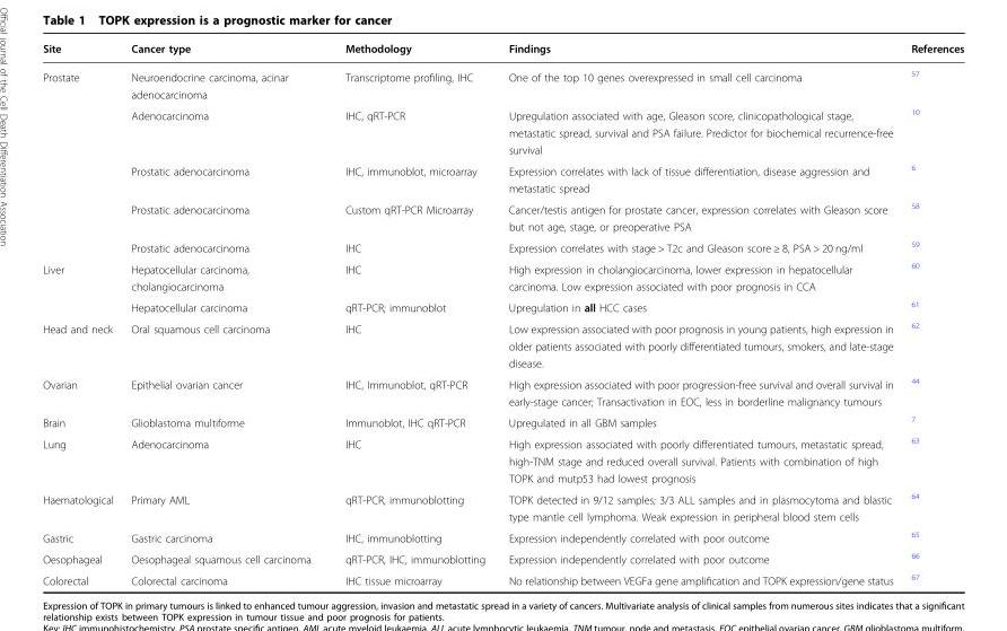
<table><thead><tr><td>Site</td><td>Cancer type</td><td>Methodology</td><td>Findings</td><td>References</td></tr></thead><tbody><tr><td rowspan="5">Prostate</td><td>Neuroendocrine carcinoma, acinar adenocarcinoma</td><td>Transcriptome profiling, IHC</td><td>One of the top 10 genes overexpressed in small cell carcinoma</td><td><sup>57</sup></td></tr><tr><td>Adenocarcinoma</td><td>IHC, qRT-PCR</td><td>Upregulation associated with age, Gleason score, clinicopathological stage, metastatic spread, survival and PSA failure. Predictor for biochemical recurrence-free survival</td><td><sup>10</sup></td></tr><tr><td>Prostatic adenocarcinoma</td><td>IHC, immunoblot, microarray</td><td>Expression correlates with lack of tissue differentiation, disease aggression and metastatic spread</td><td><sup>6</sup></td></tr><tr><td>Prostatic adenocarcinoma</td><td>Custom qRT-PCR Microarray</td><td>Cancer/testis antigen for prostate cancer, expression correlates with Gleason score but not age, stage, or preoperative PSA</td><td><sup>58</sup></td></tr><tr><td>Prostatic adenocarcinoma</td><td>IHC</td><td>Expression correlates with stage &gt; T2c and Gleason score ≥ 8, PSA &gt; 20 ng/ml</td><td><sup>59</sup></td></tr><tr><td rowspan="2">Liver</td><td>Hepatocellular carcinoma, cholangiocarcinoma</td><td>IHC</td><td>High expression in cholangiocarcinoma, lower expression in hepatocellular carcinoma. Low expression associated with poor prognosis in CCA</td><td><sup>60</sup></td></tr><tr><td>Hepatocellular carcinoma</td><td>qRT-PCR; immunoblot</td><td>Upregulation in all HCC cases</td><td><sup>61</sup></td></tr><tr><td>Head and neck</td><td>Oral squamous cell carcinoma</td><td>IHC</td><td>Low expression associated with poor prognosis in young patients, high expression in older patients associated with poorly differentiated tumours, smokers, and late-stage disease.</td><td><sup>62</sup></td></tr><tr><td>Ovarian</td><td>Epithelial ovarian cancer</td><td>IHC, Immunoblot, qRT-PCR</td><td>High expression associated with poor progression-free survival and overall survival in early-stage cancer; Transactivation in EOC, less in borderline malignancy tumours</td><td><sup>44</sup></td></tr><tr><td>Brain</td><td>Glioblastoma multiforme</td><td>Immunoblot, IHC qRT-PCR</td><td>Upregulated in all GBM samples</td><td><sup>7</sup></td></tr><tr><td>Lung</td><td>Adenocarcinoma</td><td>IHC</td><td>High expression associated with poorly differentiated tumours, metastatic spread, high-TNM stage and reduced overall survival. Patients with combination of high TOPK and mutp53 had lowest prognosis</td><td><sup>63</sup></td></tr><tr><td>Haematological</td><td>Primary AML</td><td>qRT-PCR, immunoblotting</td><td>TOPK detected in 9/12 samples; 3/3 ALL samples and in plasmocytoma and blastic type mantle cell lymphoma. Weak expression in peripheral blood stem cells</td><td><sup>64</sup></td></tr><tr><td>Gastric</td><td>Gastric carcinoma</td><td>IHC, immunoblotting</td><td>Expression independently correlated with poor outcome</td><td><sup>65</sup></td></tr><tr><td>Oesophageal</td><td>Oesophageal squamous cell carcinoma</td><td>qRT-PCR, IHC, immunoblotting</td><td>Expression independently correlated with poor outcome</td><td><sup>66</sup></td></tr><tr><td>Colorectal</td><td>Colorectal carcinoma</td><td>IHC tissue microarray</td><td>No relationship between VEGFa gene amplification and TOPK expression/gene status</td><td><sup>67</sup></td></tr></tbody></table>